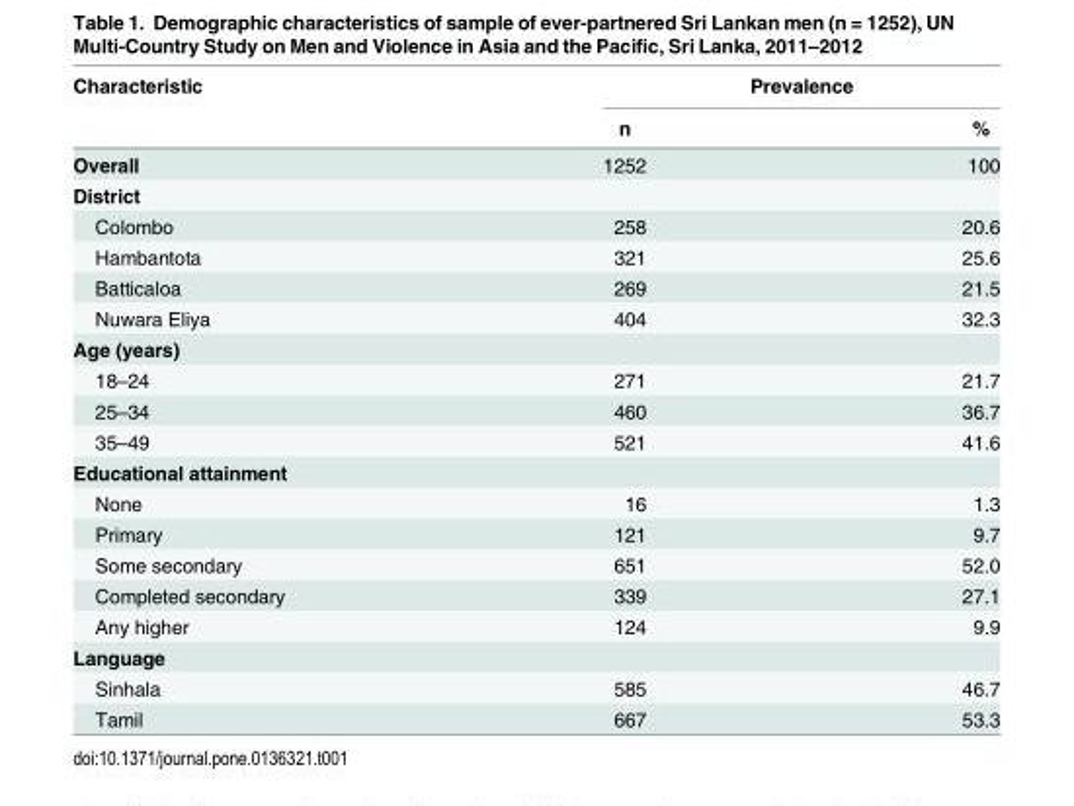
<table><thead><tr><td rowspan="2">Characteristic</td><td colspan="2">Prevalence</td></tr><tr><td>n</td><td>%</td></tr></thead><tbody><tr><td>Overall</td><td>1252</td><td>100</td></tr><tr><td colspan="3">District</td></tr><tr><td>Colombo</td><td>258</td><td>20.6</td></tr><tr><td>Hambantota</td><td>321</td><td>25.6</td></tr><tr><td>Batticaloa</td><td>269</td><td>21.5</td></tr><tr><td>Nuwara Eliya</td><td>404</td><td>32.3</td></tr><tr><td colspan="3">Age (years)</td></tr><tr><td>18–24</td><td>271</td><td>21.7</td></tr><tr><td>25–34</td><td>460</td><td>36.7</td></tr><tr><td>35–49</td><td>521</td><td>41.6</td></tr><tr><td colspan="3">Educational attainment</td></tr><tr><td>None</td><td>16</td><td>1.3</td></tr><tr><td>Primary</td><td>121</td><td>9.7</td></tr><tr><td>Some secondary</td><td>651</td><td>52.0</td></tr><tr><td>Completed secondary</td><td>339</td><td>27.1</td></tr><tr><td>Any higher</td><td>124</td><td>9.9</td></tr><tr><td colspan="3">Language</td></tr><tr><td>Sinhala</td><td>585</td><td>46.7</td></tr><tr><td>Tamil</td><td>667</td><td>53.3</td></tr></tbody></table>